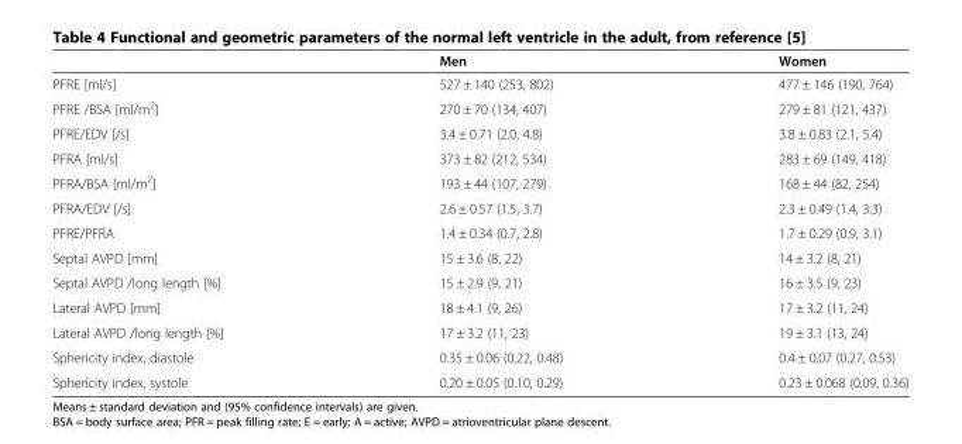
<table><thead><tr><td></td><td>Men</td><td>Women</td></tr></thead><tbody><tr><td>PFRE [ml/s]</td><td>527 ± 140 (253, 802)</td><td>477 ± 146 (190, 764)</td></tr><tr><td>PFRE /BSA [ml/m<sup>2</sup>]</td><td>270 ± 70 (134, 407)</td><td>279 ± 81 (121, 437)</td></tr><tr><td>PFRE/EDV [/s]</td><td>3.4 ± 0.71 (2.0, 4.8)</td><td>3.8 ± 0.83 (2.1, 5.4)</td></tr><tr><td>PFRA [ml/s]</td><td>373 ± 82 (212, 534)</td><td>283 ± 69 (149, 418)</td></tr><tr><td>PFRA/BSA [ml/m<sup>2</sup>]</td><td>193 ± 44 (107, 279)</td><td>168 ± 44 (82, 254)</td></tr><tr><td>PFRA/EDV [/s]</td><td>2.6 ± 0.57 (1.5, 3.7)</td><td>2.3 ± 0.49 (1.4, 3.3)</td></tr><tr><td>PFRE/PFRA</td><td>1.4 ± 0.34 (0.7, 2.8)</td><td>1.7 ± 0.29 (0.9, 3.1)</td></tr><tr><td>Septal AVPD [mm]</td><td>15 ± 3.6 (8, 22)</td><td>14 ± 3.2 (8, 21)</td></tr><tr><td>Septal AVPD /long length [%]</td><td>15 ± 2.9 (9, 21)</td><td>16 ± 3.5 (9, 23)</td></tr><tr><td>Lateral AVPD [mm]</td><td>18 ± 4.1 (9, 26)</td><td>17 ± 3.2 (11, 24)</td></tr><tr><td>Lateral AVPD /long length [%]</td><td>17 ± 3.2 (11, 23)</td><td>19 ± 3.1 (13, 24)</td></tr><tr><td>Sphericity index, diastole</td><td>0.35 ± 0.06 (0.22, 0.48)</td><td>0.4 ± 0.07 (0.27, 0.53)</td></tr><tr><td>Sphericity index, systole</td><td>0.20 ± 0.05 (0.10, 0.29)</td><td>0.23 ± 0.068 (0.09, 0.36)</td></tr></tbody></table>